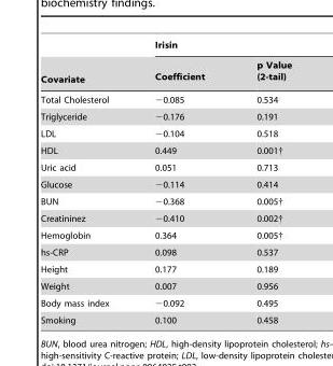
<table><thead><tr><td rowspan="2">Covariate</td><td colspan="2">Irisin</td></tr><tr><td>Coefficient</td><td>p Value (2-tail)</td></tr></thead><tbody><tr><td>Total Cholesterol</td><td>−0.085</td><td>0.534</td></tr><tr><td>Triglyceride</td><td>−0.176</td><td>0.191</td></tr><tr><td>LDL</td><td>−0.104</td><td>0.518</td></tr><tr><td>HDL</td><td>0.449</td><td>0.001†</td></tr><tr><td>Uric acid</td><td>0.051</td><td>0.713</td></tr><tr><td>Glucose</td><td>−0.114</td><td>0.414</td></tr><tr><td>BUN</td><td>−0.368</td><td>0.005†</td></tr><tr><td>Creatininez</td><td>−0.410</td><td>0.002†</td></tr><tr><td>Hemoglobin</td><td>0.364</td><td>0.005†</td></tr><tr><td>hs-CRP</td><td>0.098</td><td>0.537</td></tr><tr><td>Height</td><td>0.177</td><td>0.189</td></tr><tr><td>Weight</td><td>0.007</td><td>0.956</td></tr><tr><td>Body mass index</td><td>−0.092</td><td>0.495</td></tr><tr><td>Smoking</td><td>0.100</td><td>0.458</td></tr></tbody></table>